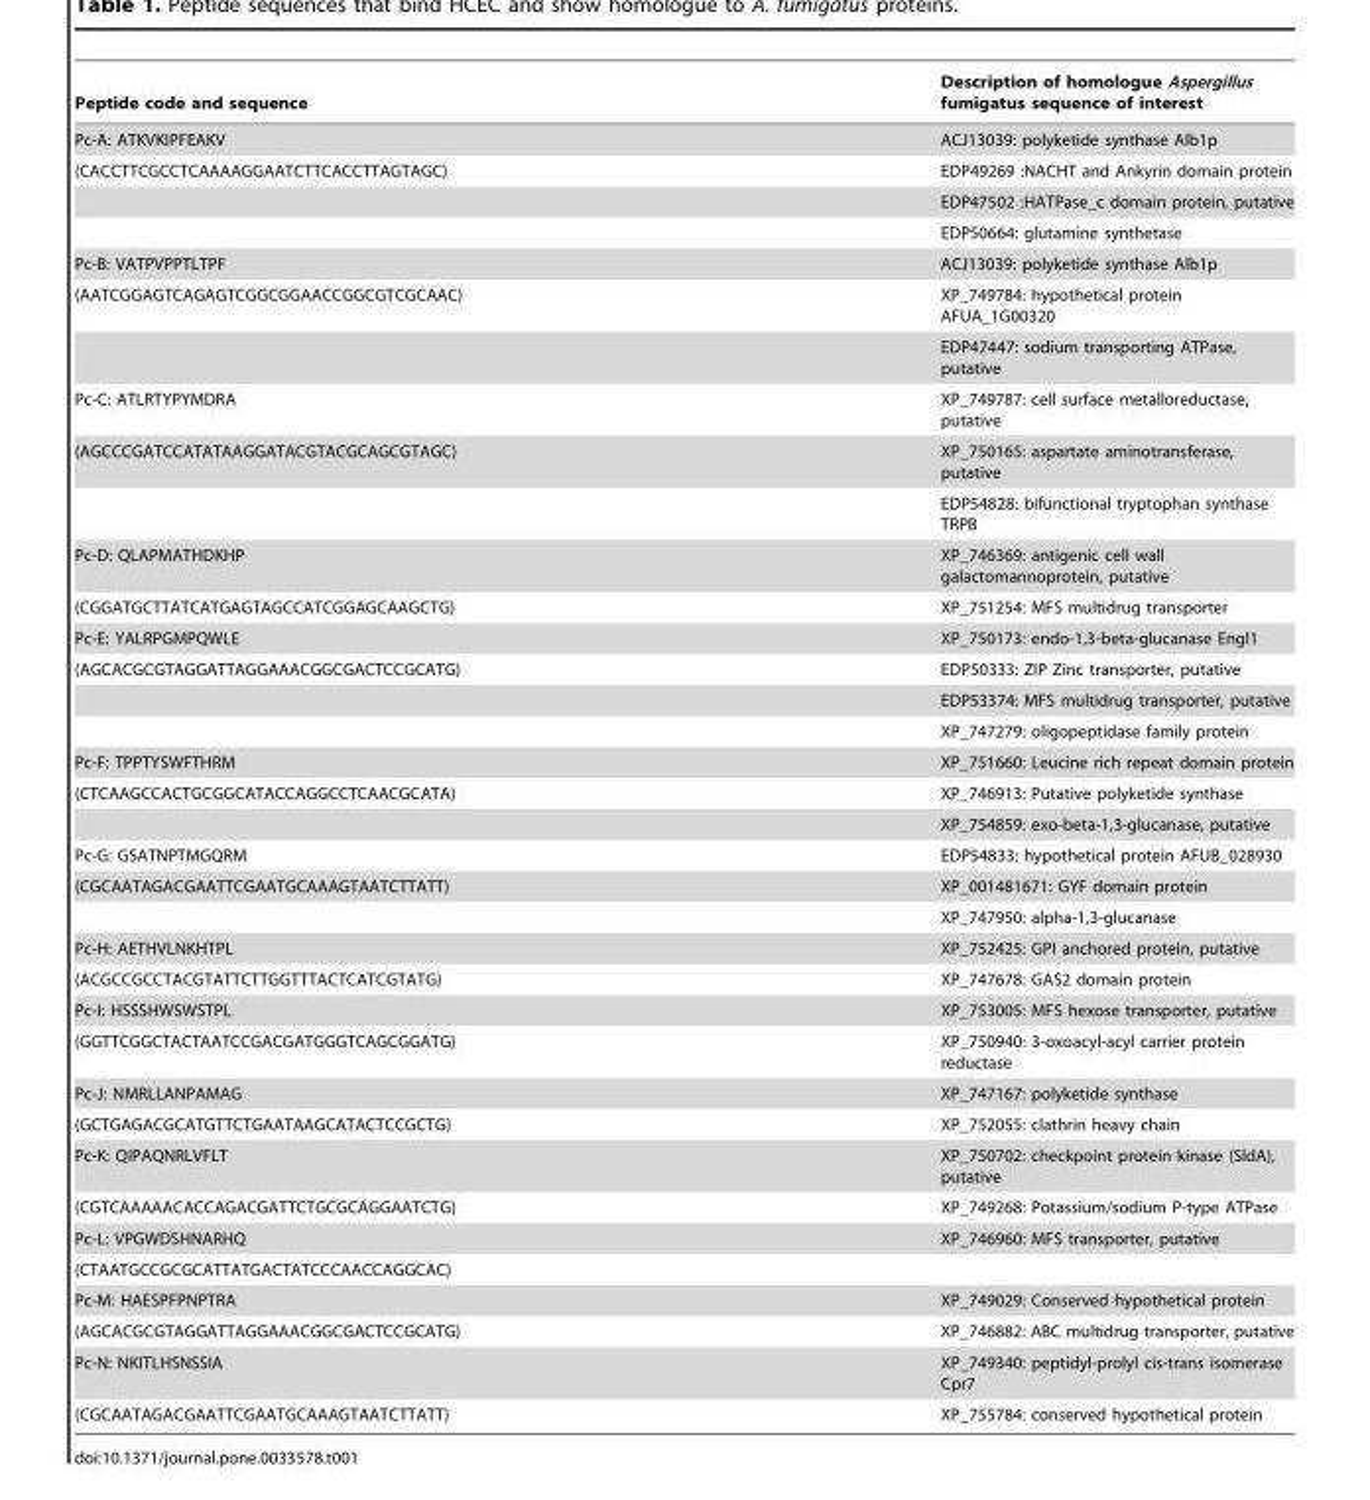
<table><thead><tr><td>Peptide code and sequence</td><td>Description of homologue Aspergillus fumigatus sequence of interest</td></tr></thead><tbody><tr><td>Pc-A: ATKVKIPFEAKV</td><td>ACJ13039: polyketide synthase Alb1p</td></tr><tr><td rowspan="3">(CACCTTCGCCTCAAAAGGAATCTTCACCTTAGTAGC)</td><td>EDP49269 :NACHT and Ankyrin domain protein</td></tr><tr><td>EDP47502 :HATPase_c domain protein, putative</td></tr><tr><td>EDP50664: glutamine synthetase</td></tr><tr><td>Pc-B: VATPVPPTLTPF</td><td>ACJ13039: polyketide synthase Alb1p</td></tr><tr><td rowspan="2">(AATCGGAGTCAGAGTCGGCGGAACCGGCGTCGCAAC)</td><td>XP_749784: hypothetical protein AFUA_1G00320</td></tr><tr><td>EDP47447: sodium transporting ATPase, putative</td></tr><tr><td>Pc-C: ATLRTYPYMDRA</td><td>XP_749787: cell surface metalloreductase, putative</td></tr><tr><td rowspan="2">(AGCCCGATCCATATAAGGATACGTACGCAGCGTAGC)</td><td>XP_750165: aspartate aminotransferase, putative</td></tr><tr><td>EDP54828: bifunctional tryptophan synthase TRPB</td></tr><tr><td>Pc-D: QLAPMATHDKHP</td><td>XP_746369: antigenic cell wall galactomannoprotein, putative</td></tr><tr><td>(CGGATGCTTATCATGAGTAGCCATCGGAGCAAGCTG)</td><td>XP_751254: MFS multidrug transporter</td></tr><tr><td>Pc-E: YALRPGMPQWLE</td><td>XP_750173: endo-1,3-beta-glucanase Engl1</td></tr><tr><td rowspan="3">(AGCACGCGTAGGATTAGGAAACGGCGACTCCGCATG)</td><td>EDP50333: ZIP Zinc transporter, putative</td></tr><tr><td>EDP53374: MFS multidrug transporter, putative</td></tr><tr><td>XP_747279: oligopeptidase family protein</td></tr><tr><td>Pc-F: TPPTYSWFTHRM</td><td>XP_751660: Leucine rich repeat domain protein</td></tr><tr><td rowspan="2">(CTCAAGCCACTGCGGCATACCAGGCCTCAACGCATA)</td><td>XP_746913: Putative polyketide synthase</td></tr><tr><td>XP_754859: exo-beta-1,3-glucanase, putative</td></tr><tr><td>Pc-G: GSATNPTMGQRM</td><td>EDP54833: hypothetical protein AFUB_028930</td></tr><tr><td rowspan="2">(CGCAATAGACGAATTCGAATGCAAAGTAATCTTATT)</td><td>XP_001481671: GYF domain protein</td></tr><tr><td>XP_747950: alpha-1,3-glucanase</td></tr><tr><td>Pc-H: AETHVLNKHTPL</td><td>XP_752425: GPI anchored protein, putative</td></tr><tr><td>(ACGCCGCCTACGTATTCTTGGTTTACTCATCGTATG)</td><td>XP_747678: GAS2 domain protein</td></tr><tr><td>Pc-I: HSSSHWSWSTPL</td><td>XP_753005: MFS hexose transporter, putative</td></tr><tr><td>(GGTTCGGCTACTAATCCGACGATGGGTCAGCGGATG)</td><td>XP_750940: 3-oxoacyl-acyl carrier protein reductase</td></tr><tr><td>Pc-J: NMRLLANPAMAG</td><td>XP_747167: polyketide synthase</td></tr><tr><td>(GCTGAGACGCATGTTCTGAATAAGCATACTCCGCTG)</td><td>XP_752055: clathrin heavy chain</td></tr><tr><td>Pc-K: QIPAQNRLVFLT</td><td>XP_750702: checkpoint protein kinase (SldA), putative</td></tr><tr><td>(CGTCAAAAACACCAGACGATTCTGCGCAGGAATCTG)</td><td>XP_749268: Potassium/sodium P-type ATPase</td></tr><tr><td>Pc-L: VPGWDSHNARHQ</td><td>XP_746960: MFS transporter, putative</td></tr><tr><td colspan="2">(CTAATGCCGCGCATTATGACTATCCCAACCAGGCAC)</td></tr><tr><td>Pc-M: HAESPFPNPTRA</td><td>XP_749029: Conserved hypothetical protein</td></tr><tr><td>(AGCACGCGTAGGATTAGGAAACGGCGACTCCGCATG)</td><td>XP_746882: ABC multidrug transporter, putative</td></tr><tr><td>Pc-N: NKITLHSNSSIA</td><td>XP_749340: peptidyl-prolyl cis-trans isomerase Cpr7</td></tr><tr><td>(CGCAATAGACGAATTCGAATGCAAAGTAATCTTATT)</td><td>XP_755784: conserved hypothetical protein</td></tr></tbody></table>